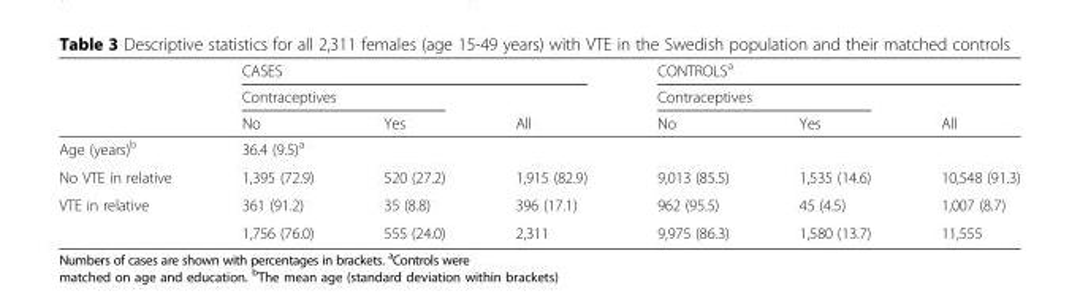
<table><thead><tr><td rowspan="3"></td><td colspan="3">CASES</td><td colspan="3">CONTROLS<sup>a</sup></td></tr><tr><td colspan="2">Contraceptives</td><td rowspan="2">All</td><td colspan="2">Contraceptives</td><td rowspan="2">All</td></tr><tr><td>No</td><td>Yes</td><td>No</td><td>Yes</td></tr></thead><tbody><tr><td>Age (years)<sup>b</sup></td><td colspan="3">36.4 (9.5)<sup>a</sup></td><td colspan="3"></td></tr><tr><td>No VTE in relative</td><td>1,395 (72.9)</td><td>520 (27.2)</td><td>1,915 (82.9)</td><td>9,013 (85.5)</td><td>1,535 (14.6)</td><td>10,548 (91.3)</td></tr><tr><td rowspan="2">VTE in relative</td><td>361 (91.2)</td><td>35 (8.8)</td><td>396 (17.1)</td><td>962 (95.5)</td><td>45 (4.5)</td><td>1,007 (8.7)</td></tr><tr><td>1,756 (76.0)</td><td>555 (24.0)</td><td>2,311</td><td>9,975 (86.3)</td><td>1,580 (13.7)</td><td>11,555</td></tr></tbody></table>